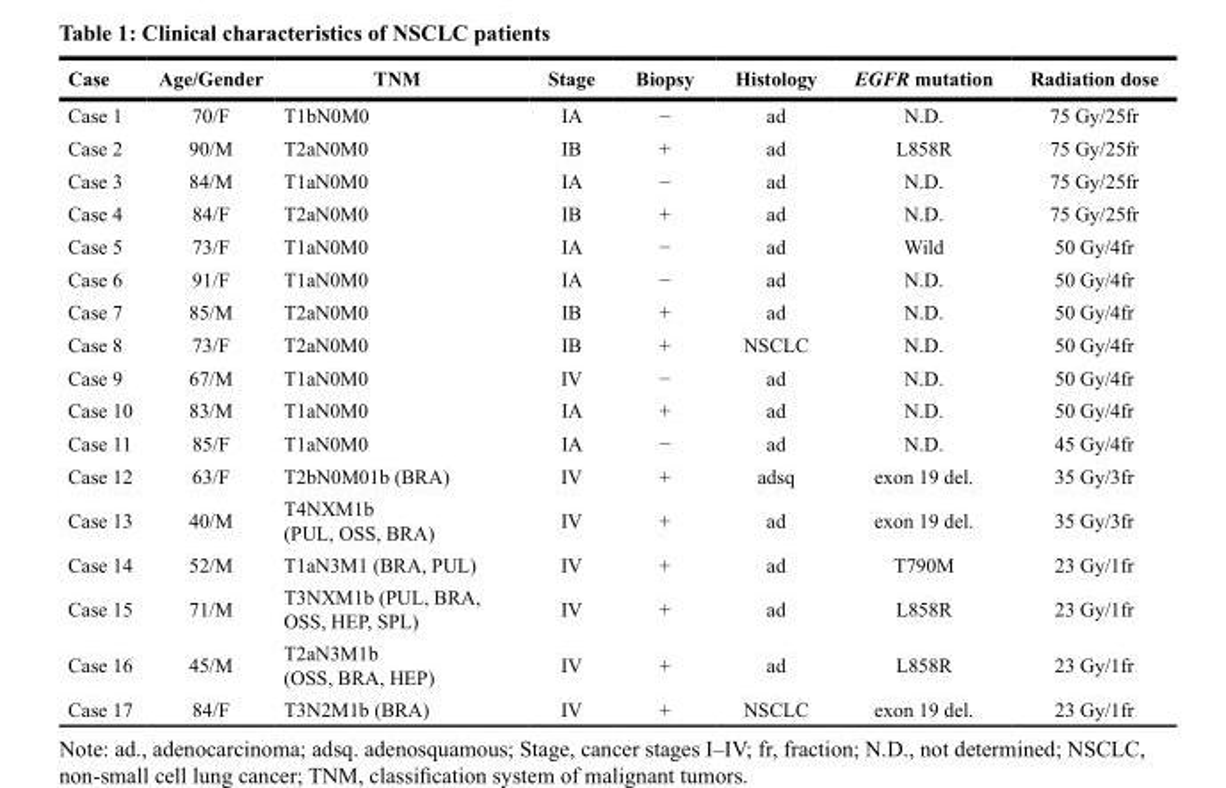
<table><thead><tr><td>Case</td><td>Age/Gender</td><td>TNM</td><td>Stage</td><td>Biopsy</td><td>Histology</td><td>EGFR mutation</td><td>Radiation dose</td></tr></thead><tbody><tr><td>Case 1</td><td>70/F</td><td>T1bN0M0</td><td>IA</td><td>−</td><td>ad</td><td>N.D.</td><td>75 Gy/25fr</td></tr><tr><td>Case 2</td><td>90/M</td><td>T2aN0M0</td><td>IB</td><td>+</td><td>ad</td><td>L858R</td><td>75 Gy/25fr</td></tr><tr><td>Case 3</td><td>84/M</td><td>T1aN0M0</td><td>IA</td><td>−</td><td>ad</td><td>N.D.</td><td>75 Gy/25fr</td></tr><tr><td>Case 4</td><td>84/F</td><td>T2aN0M0</td><td>IB</td><td>+</td><td>ad</td><td>N.D.</td><td>75 Gy/25fr</td></tr><tr><td>Case 5</td><td>73/F</td><td>T1aN0M0</td><td>IA</td><td>−</td><td>ad</td><td>Wild</td><td>50 Gy/4fr</td></tr><tr><td>Case 6</td><td>91/F</td><td>T1aN0M0</td><td>IA</td><td>−</td><td>ad</td><td>N.D.</td><td>50 Gy/4fr</td></tr><tr><td>Case 7</td><td>85/M</td><td>T2aN0M0</td><td>IB</td><td>+</td><td>ad</td><td>N.D.</td><td>50 Gy/4fr</td></tr><tr><td>Case 8</td><td>73/F</td><td>T2aN0M0</td><td>IB</td><td>+</td><td>NSCLC</td><td>N.D.</td><td>50 Gy/4fr</td></tr><tr><td>Case 9</td><td>67/M</td><td>T1aN0M0</td><td>IV</td><td>−</td><td>ad</td><td>N.D.</td><td>50 Gy/4fr</td></tr><tr><td>Case 10</td><td>83/M</td><td>T1aN0M0</td><td>IA</td><td>+</td><td>ad</td><td>N.D.</td><td>50 Gy/4fr</td></tr><tr><td>Case 11</td><td>85/F</td><td>T1aN0M0</td><td>IA</td><td>−</td><td>ad</td><td>N.D.</td><td>45 Gy/4fr</td></tr><tr><td>Case 12</td><td>63/F</td><td>T2bN0M01b (BRA)</td><td>IV</td><td>+</td><td>adsq</td><td>exon 19 del.</td><td>35 Gy/3fr</td></tr><tr><td>Case 13</td><td>40/M</td><td>T4NXM1b (PUL, OSS, BRA)</td><td>IV</td><td>+</td><td>ad</td><td>exon 19 del.</td><td>35 Gy/3fr</td></tr><tr><td>Case 14</td><td>52/M</td><td>T1aN3M1 (BRA, PUL)</td><td>IV</td><td>+</td><td>ad</td><td>T790M</td><td>23 Gy/1fr</td></tr><tr><td>Case 15</td><td>71/M</td><td>T3NXM1b (PUL, BRA, OSS, HEP, SPL)</td><td>IV</td><td>+</td><td>ad</td><td>L858R</td><td>23 Gy/1fr</td></tr><tr><td>Case 16</td><td>45/M</td><td>T2aN3M1b (OSS, BRA, HEP)</td><td>IV</td><td>+</td><td>ad</td><td>L858R</td><td>23 Gy/1fr</td></tr><tr><td>Case 17</td><td>84/F</td><td>T3N2M1b (BRA)</td><td>IV</td><td>+</td><td>NSCLC</td><td>exon 19 del.</td><td>23 Gy/1fr</td></tr></tbody></table>